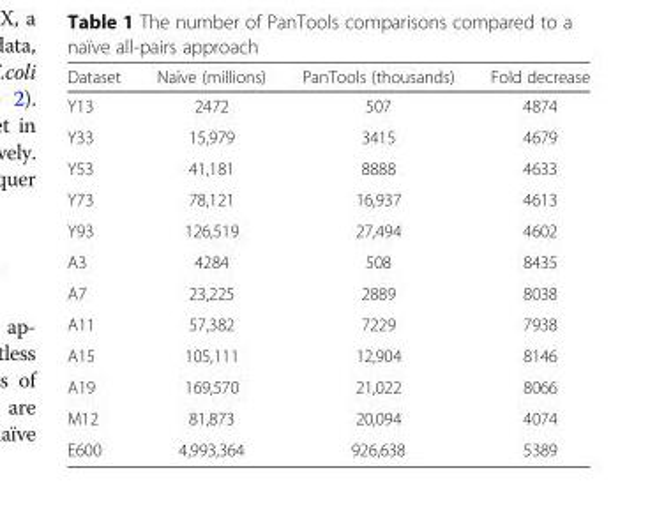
<table><thead><tr><td>Dataset</td><td>Naïve (millions)</td><td>PanTools (thousands)</td><td>Fold decrease</td></tr></thead><tbody><tr><td>Y13</td><td>2472</td><td>507</td><td>4874</td></tr><tr><td>Y33</td><td>15,979</td><td>3415</td><td>4679</td></tr><tr><td>Y53</td><td>41,181</td><td>8888</td><td>4633</td></tr><tr><td>Y73</td><td>78,121</td><td>16,937</td><td>4613</td></tr><tr><td>Y93</td><td>126,519</td><td>27,494</td><td>4602</td></tr><tr><td>A3</td><td>4284</td><td>508</td><td>8435</td></tr><tr><td>A7</td><td>23,225</td><td>2889</td><td>8038</td></tr><tr><td>A11</td><td>57,382</td><td>7229</td><td>7938</td></tr><tr><td>A15</td><td>105,111</td><td>12,904</td><td>8146</td></tr><tr><td>A19</td><td>169,570</td><td>21,022</td><td>8066</td></tr><tr><td>M12</td><td>81,873</td><td>20,094</td><td>4074</td></tr><tr><td>E600</td><td>4,993,364</td><td>926,638</td><td>5389</td></tr></tbody></table>